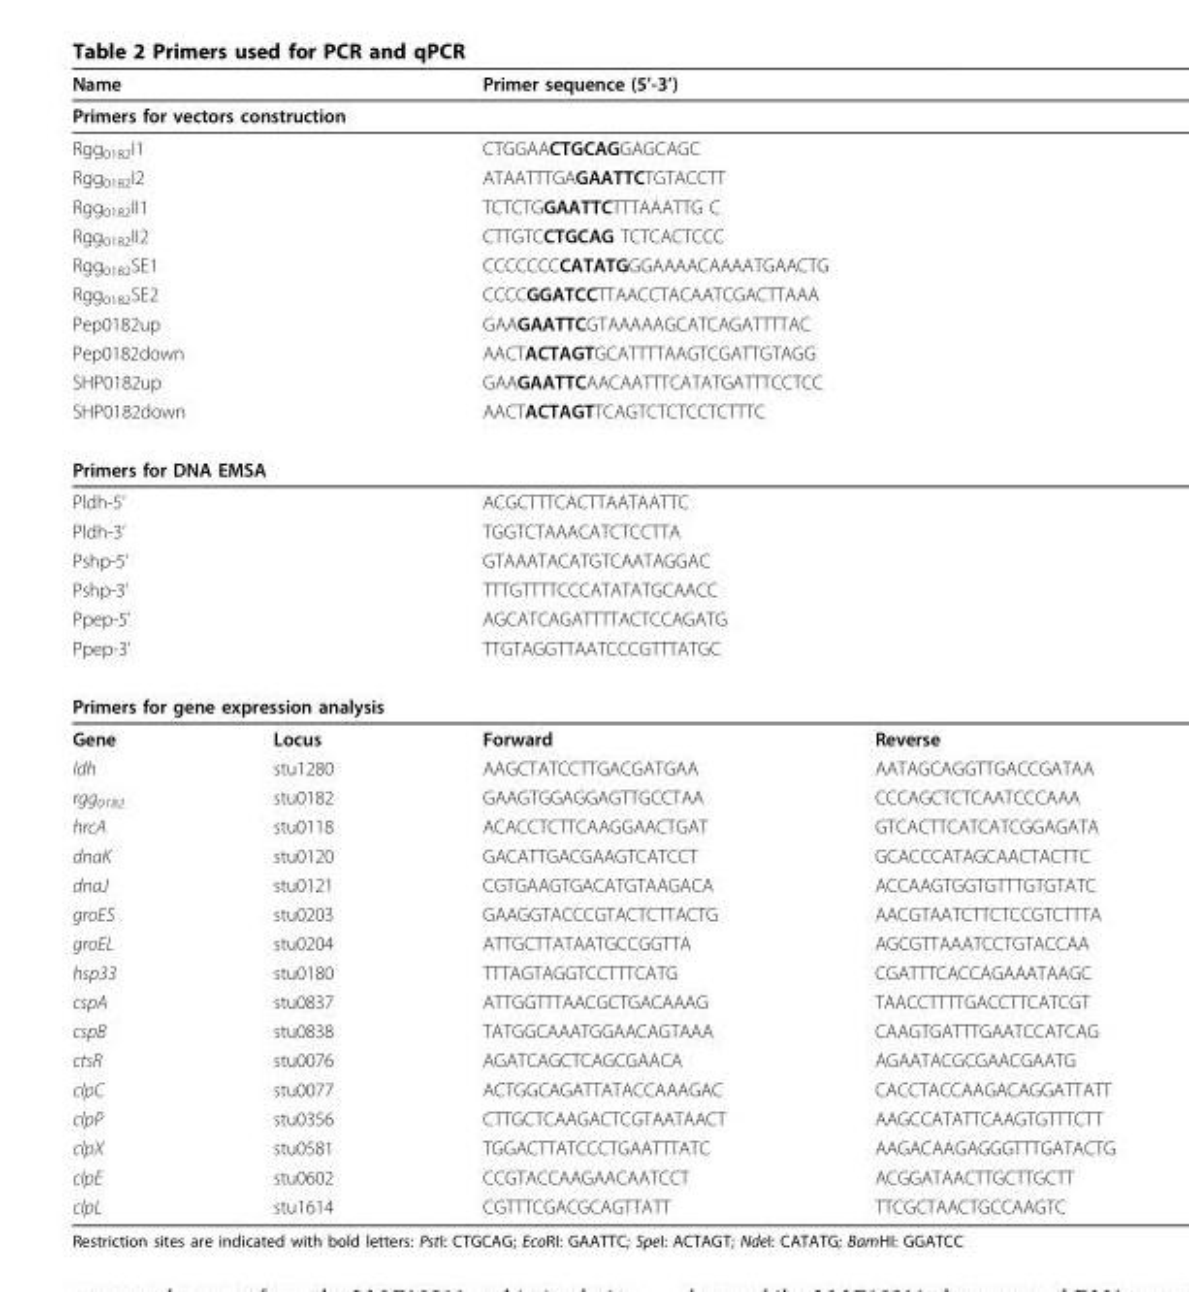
<table><thead><tr><td colspan="2">Name</td><td colspan="2">Primer sequence (5’-3’)</td></tr></thead><tbody><tr><td colspan="4">Primers for vectors construction</td></tr><tr><td colspan="2">Rgg<sub>0182</sub>I1</td><td colspan="2">CTGGAACTGCAGGAGCAGC</td></tr><tr><td colspan="2">Rgg<sub>0182</sub>I2</td><td colspan="2">ATAATTTGAGAATTCTGTACCTT</td></tr><tr><td colspan="2">Rgg<sub>0182</sub>II1</td><td colspan="2">TCTCTGGAATTCTTTAAATTG C</td></tr><tr><td colspan="2">Rgg<sub>0182</sub>II2</td><td colspan="2">CTTGTCCTGCAG TCTCACTCCC</td></tr><tr><td colspan="2">Rgg<sub>0182</sub>SE1</td><td colspan="2">CCCCCCCCATATGGGAAAACAAAATGAACTG</td></tr><tr><td colspan="2">Rgg<sub>0182</sub>SE2</td><td colspan="2">CCCCGGATCCTTAACCTACAATCGACTTAAA</td></tr><tr><td colspan="2">Pep0182up</td><td colspan="2">GAAGAATTCGTAAAAAGCATCAGATTTTAC</td></tr><tr><td colspan="2">Pep0182down</td><td colspan="2">AACTACTAGTGCATTTTAAGTCGATTGTAGG</td></tr><tr><td colspan="2">SHP0182up</td><td colspan="2">GAAGAATTCAACAATTTCATATGATTTCCTCC</td></tr><tr><td colspan="2">SHP0182down</td><td colspan="2">AACTACTAGTTCAGTCTCTCCTCTTTC</td></tr><tr><td colspan="4">Primers for DNA EMSA</td></tr><tr><td colspan="2">Pldh-5’</td><td colspan="2">ACGCTTTCACTTAATAATTC</td></tr><tr><td colspan="2">Pldh-3’</td><td colspan="2">TGGTCTAAACATCTCCTTA</td></tr><tr><td colspan="2">Pshp-5’</td><td colspan="2">GTAAATACATGTCAATAGGAC</td></tr><tr><td colspan="2">Pshp-3’</td><td colspan="2">TTTGTTTTCCCATATATGCAACC</td></tr><tr><td colspan="2">Ppep-5’</td><td colspan="2">AGCATCAGATTTTACTCCAGATG</td></tr><tr><td colspan="2">Ppep-3’</td><td colspan="2">TTGTAGGTTAATCCCGTTTATGC</td></tr><tr><td colspan="4">Primers for gene expression analysis</td></tr><tr><td>Gene</td><td>Locus</td><td>Forward</td><td>Reverse</td></tr><tr><td>ldh</td><td>stu1280</td><td>AAGCTATCCTTGACGATGAA</td><td>AATAGCAGGTTGACCGATAA</td></tr><tr><td>rgg<sub>0182</sub></td><td>stu0182</td><td>GAAGTGGAGGAGTTGCCTAA</td><td>CCCAGCTCTCAATCCCAAA</td></tr><tr><td>hrcA</td><td>stu0118</td><td>ACACCTCTTCAAGGAACTGAT</td><td>GTCACTTCATCATCGGAGATA</td></tr><tr><td>dnaK</td><td>stu0120</td><td>GACATTGACGAAGTCATCCT</td><td>GCACCCATAGCAACTACTTC</td></tr><tr><td>dnaJ</td><td>stu0121</td><td>CGTGAAGTGACATGTAAGACA</td><td>ACCAAGTGGTGTTTGTGTATC</td></tr><tr><td>groES</td><td>stu0203</td><td>GAAGGTACCCGTACTCTTACTG</td><td>AACGTAATCTTCTCCGTCTTTA</td></tr><tr><td>groEL</td><td>stu0204</td><td>ATTGCTTATAATGCCGGTTA</td><td>AGCGTTAAATCCTGTACCAA</td></tr><tr><td>hsp33</td><td>stu0180</td><td>TTTAGTAGGTCCTTTCATG</td><td>CGATTTCACCAGAAATAAGC</td></tr><tr><td>cspA</td><td>stu0837</td><td>ATTGGTTTAACGCTGACAAAG</td><td>TAACCTTTTGACCTTCATCGT</td></tr><tr><td>cspB</td><td>stu0838</td><td>TATGGCAAATGGAACAGTAAA</td><td>CAAGTGATTTGAATCCATCAG</td></tr><tr><td>ctsR</td><td>stu0076</td><td>AGATCAGCTCAGCGAACA</td><td>AGAATACGCGAACGAATG</td></tr><tr><td>clpC</td><td>stu0077</td><td>ACTGGCAGATTATACCAAAGAC</td><td>CACCTACCAAGACAGGATTATT</td></tr><tr><td>clpP</td><td>stu0356</td><td>CTTGCTCAAGACTCGTAATAACT</td><td>AAGCCATATTCAAGTGTTTCTT</td></tr><tr><td>clpX</td><td>stu0581</td><td>TGGACTTATCCCTGAATTTATC</td><td>AAGACAAGAGGGTTTGATACTG</td></tr><tr><td>clpE</td><td>stu0602</td><td>CCGTACCAAGAACAATCCT</td><td>ACGGATAACTTGCTTGCTT</td></tr><tr><td>clpL</td><td>stu1614</td><td>CGTTTCGACGCAGTTATT</td><td>TTCGCTAACTGCCAAGTC</td></tr></tbody></table>